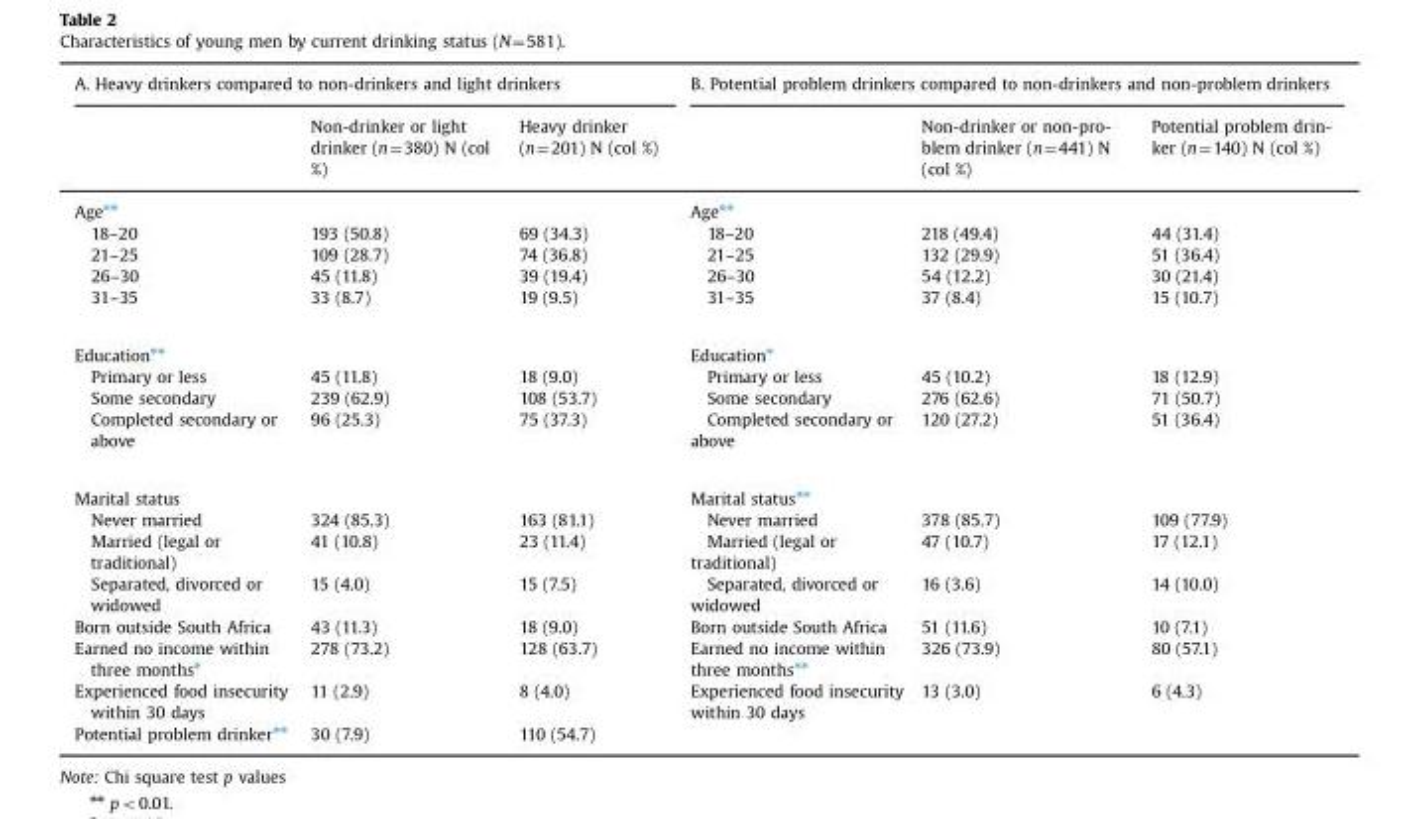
<table><tbody><tr><td colspan="3">A. Heavy drinkers compared to non-drinkers and light drinkers</td><td colspan="3">B. Potential problem drinkers compared to non-drinkers and non-problem drinkers</td></tr><tr><td></td><td>Non-drinker or light drinker (n=380) N (col %)</td><td>Heavy drinker (n=201) N (col %)</td><td></td><td>Non-drinker or non-pro- blem drinker (n¼441) N (col %)</td><td>Potential problem drin- ker (n¼140) N (col %)</td></tr><tr><td>Age⁎⁎</td><td></td><td></td><td>Age⁎⁎</td><td></td><td></td></tr><tr><td>18–20</td><td>193 (50.8)</td><td>69 (34.3)</td><td>18–20</td><td>218 (49.4)</td><td>44 (31.4)</td></tr><tr><td>21–25</td><td>109 (28.7)</td><td>74 (36.8)</td><td>21–25</td><td>132 (29.9)</td><td>51 (36.4)</td></tr><tr><td>26–30</td><td>45 (11.8)</td><td>39 (19.4)</td><td>26–30</td><td>54 (12.2)</td><td>30 (21.4)</td></tr><tr><td>31–35</td><td>33 (8.7)</td><td>19 (9.5)</td><td>31–35</td><td>37 (8.4)</td><td>15 (10.7)</td></tr><tr><td>Education⁎⁎</td><td></td><td></td><td>Education⁎</td><td></td><td></td></tr><tr><td>Primary or less</td><td>45 (11.8)</td><td>18 (9.0)</td><td>Primary or less</td><td>45 (10.2)</td><td>18 (12.9)</td></tr><tr><td>Some secondary</td><td>239 (62.9)</td><td>108 (53.7)</td><td>Some secondary</td><td>276 (62.6)</td><td>71 (50.7)</td></tr><tr><td>Completed secondary or above</td><td>96 (25.3)</td><td>75 (37.3)</td><td>Completed secondary or above</td><td>120 (27.2)</td><td>51 (36.4)</td></tr><tr><td>Marital status</td><td></td><td></td><td>Marital status⁎⁎</td><td></td><td></td></tr><tr><td>Never married</td><td>324 (85.3)</td><td>163 (81.1)</td><td>Never married</td><td>378 (85.7)</td><td>109 (77.9)</td></tr><tr><td>Married (legal or traditional)</td><td>41 (10.8)</td><td>23 (11.4)</td><td>Married (legal or traditional)</td><td>47 (10.7)</td><td>17 (12.1)</td></tr><tr><td>Separated, divorced or widowed</td><td>15 (4.0)</td><td>15 (7.5)</td><td>Separated, divorced or widowed</td><td>16 (3.6)</td><td>14 (10.0)</td></tr><tr><td>Born outside South Africa</td><td>43 (11.3)</td><td>18 (9.0)</td><td>Born outside South Africa</td><td>51 (11.6)</td><td>10 (7.1)</td></tr><tr><td>Earned no income within three months⁎</td><td>278 (73.2)</td><td>128 (63.7)</td><td>Earned no income within three months⁎⁎</td><td>326 (73.9)</td><td>80 (57.1)</td></tr><tr><td>Experienced food insecurity within 30 days</td><td>11 (2.9)</td><td>8 (4.0)</td><td>Experienced food insecurity within 30 days</td><td>13 (3.0)</td><td>6 (4.3)</td></tr><tr><td>Potential problem drinker⁎⁎</td><td>30 (7.9)</td><td>110 (54.7)</td><td></td><td></td><td></td></tr></tbody></table>